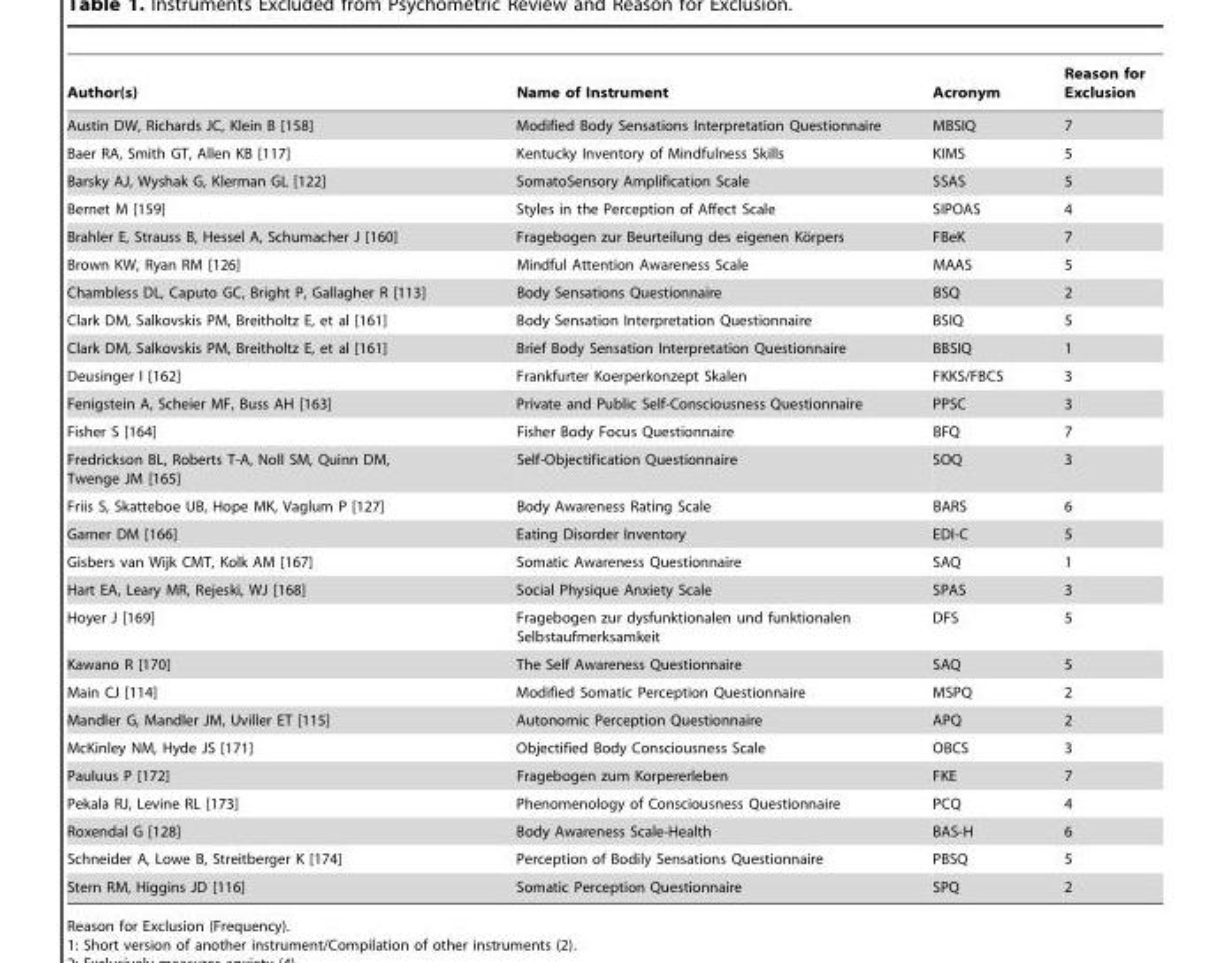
<table><thead><tr><td>Author(s)</td><td>Name of Instrument</td><td>Acronym</td><td>Reason for Exclusion</td></tr></thead><tbody><tr><td>Austin DW, Richards JC, Klein B [158]</td><td>Modified Body Sensations Interpretation Questionnaire</td><td>MBSIQ</td><td>7</td></tr><tr><td>Baer RA, Smith GT, Allen KB [117]</td><td>Kentucky Inventory of Mindfulness Skills</td><td>KIMS</td><td>5</td></tr><tr><td>Barsky AJ, Wyshak G, Klerman GL [122]</td><td>SomatoSensory Amplification Scale</td><td>SSAS</td><td>5</td></tr><tr><td>Bernet M [159]</td><td>Styles in the Perception of Affect Scale</td><td>SIPOAS</td><td>4</td></tr><tr><td>Brahler E, Strauss B, Hessel A, Schumacher J [160]</td><td>Fragebogen zur Beurteilung des eigenen Ko¨rpers</td><td>FBeK</td><td>7</td></tr><tr><td>Brown KW, Ryan RM [126]</td><td>Mindful Attention Awareness Scale</td><td>MAAS</td><td>5</td></tr><tr><td>Chambless DL, Caputo GC, Bright P, Gallagher R [113]</td><td>Body Sensations Questionnaire</td><td>BSQ</td><td>2</td></tr><tr><td>Clark DM, Salkovskis PM, Breitholtz E, et al [161]</td><td>Body Sensation Interpretation Questionnaire</td><td>BSIQ</td><td>5</td></tr><tr><td>Clark DM, Salkovskis PM, Breitholtz E, et al [161]</td><td>Brief Body Sensation Interpretation Questionnaire</td><td>BBSIQ</td><td>1</td></tr><tr><td>Deusinger I [162]</td><td>Frankfurter Koerperkonzept Skalen</td><td>FKKS/FBCS</td><td>3</td></tr><tr><td>Fenigstein A, Scheier MF, Buss AH [163]</td><td>Private and Public Self-Consciousness Questionnaire</td><td>PPSC</td><td>3</td></tr><tr><td>Fisher S [164]</td><td>Fisher Body Focus Questionnaire</td><td>BFQ</td><td>7</td></tr><tr><td>Fredrickson BL, Roberts T-A, Noll SM, Quinn DM, Twenge JM [165]</td><td>Self-Objectification Questionnaire</td><td>SOQ</td><td>3</td></tr><tr><td>Friis S, Skatteboe UB, Hope MK, Vaglum P [127]</td><td>Body Awareness Rating Scale</td><td>BARS</td><td>6</td></tr><tr><td>Garner DM [166]</td><td>Eating Disorder Inventory</td><td>EDI-C</td><td>5</td></tr><tr><td>Gisbers van Wijk CMT, Kolk AM [167]</td><td>Somatic Awareness Questionnaire</td><td>SAQ</td><td>1</td></tr><tr><td>Hart EA, Leary MR, Rejeski, WJ [168]</td><td>Social Physique Anxiety Scale</td><td>SPAS</td><td>3</td></tr><tr><td>Hoyer J [169]</td><td>Fragebogen zur dysfunktionalen und funktionalen Selbstaufmerksamkeit</td><td>DFS</td><td>5</td></tr><tr><td>Kawano R [170]</td><td>The Self Awareness Questionnaire</td><td>SAQ</td><td>5</td></tr><tr><td>Main CJ [114]</td><td>Modified Somatic Perception Questionnaire</td><td>MSPQ</td><td>2</td></tr><tr><td>Mandler G, Mandler JM, Uviller ET [115]</td><td>Autonomic Perception Questionnaire</td><td>APQ</td><td>2</td></tr><tr><td>McKinley NM, Hyde JS [171]</td><td>Objectified Body Consciousness Scale</td><td>OBCS</td><td>3</td></tr><tr><td>Pauluus P [172]</td><td>Fragebogen zum Korpererleben</td><td>FKE</td><td>7</td></tr><tr><td>Pekala RJ, Levine RL [173]</td><td>Phenomenology of Consciousness Questionnaire</td><td>PCQ</td><td>4</td></tr><tr><td>Roxendal G [128]</td><td>Body Awareness Scale-Health</td><td>BAS-H</td><td>6</td></tr><tr><td>Schneider A, Lowe B, Streitberger K [174]</td><td>Perception of Bodily Sensations Questionnaire</td><td>PBSQ</td><td>5</td></tr><tr><td>Stern RM, Higgins JD [116]</td><td>Somatic Perception Questionnaire</td><td>SPQ</td><td>2</td></tr></tbody></table>